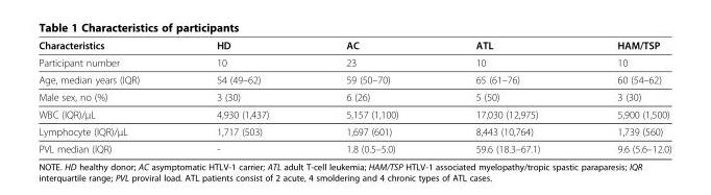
<table><thead><tr><td>Characteristics</td><td>HD</td><td>AC</td><td>ATL</td><td>HAM/TSP</td></tr></thead><tbody><tr><td>Participant number</td><td>10</td><td>23</td><td>10</td><td>10</td></tr><tr><td>Age, median years (IQR)</td><td>54 (49–62)</td><td>59 (50–70)</td><td>65 (61–76)</td><td>60 (54–62)</td></tr><tr><td>Male sex, no (%)</td><td>3 (30)</td><td>6 (26)</td><td>5 (50)</td><td>3 (30)</td></tr><tr><td>WBC (IQR)/μL</td><td>4,930 (1,437)</td><td>5,157 (1,100)</td><td>17,030 (12,975)</td><td>5,900 (1,500)</td></tr><tr><td>Lymphocyte (IQR)/μL</td><td>1,717 (503)</td><td>1,697 (601)</td><td>8,443 (10,764)</td><td>1,739 (560)</td></tr><tr><td>PVL median (IQR)</td><td>-</td><td>1.8 (0.5–5.0)</td><td>59.6 (18.3–67.1)</td><td>9.6 (5.6–12.0)</td></tr></tbody></table>